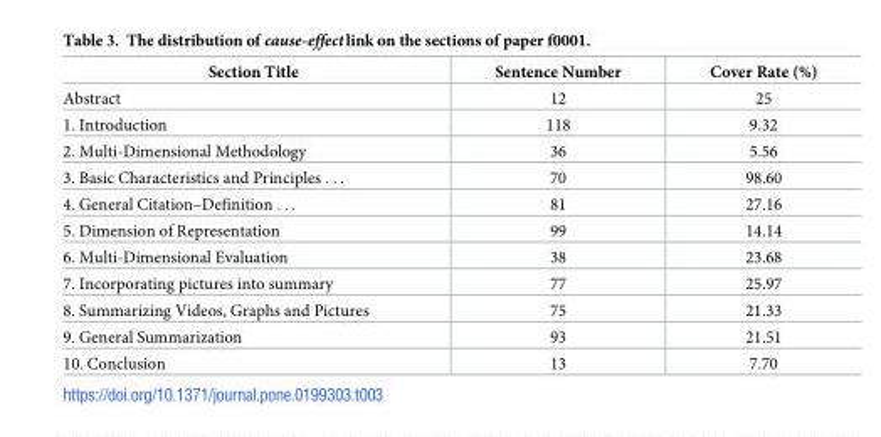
<table><thead><tr><td>Section Title</td><td>Sentence Number</td><td>Cover Rate (%)</td></tr></thead><tbody><tr><td>Abstract</td><td>12</td><td>25</td></tr><tr><td>1. Introduction</td><td>118</td><td>9.32</td></tr><tr><td>2. Multi-Dimensional Methodology</td><td>36</td><td>5.56</td></tr><tr><td>3. Basic Characteristics and Principles . . .</td><td>70</td><td>98.60</td></tr><tr><td>4. General Citation–Definition . . .</td><td>81</td><td>27.16</td></tr><tr><td>5. Dimension of Representation</td><td>99</td><td>14.14</td></tr><tr><td>6. Multi-Dimensional Evaluation</td><td>38</td><td>23.68</td></tr><tr><td>7. Incorporating pictures into summary</td><td>77</td><td>25.97</td></tr><tr><td>8. Summarizing Videos, Graphs and Pictures</td><td>75</td><td>21.33</td></tr><tr><td>9. General Summarization</td><td>93</td><td>21.51</td></tr><tr><td>10. Conclusion</td><td>13</td><td>7.70</td></tr></tbody></table>